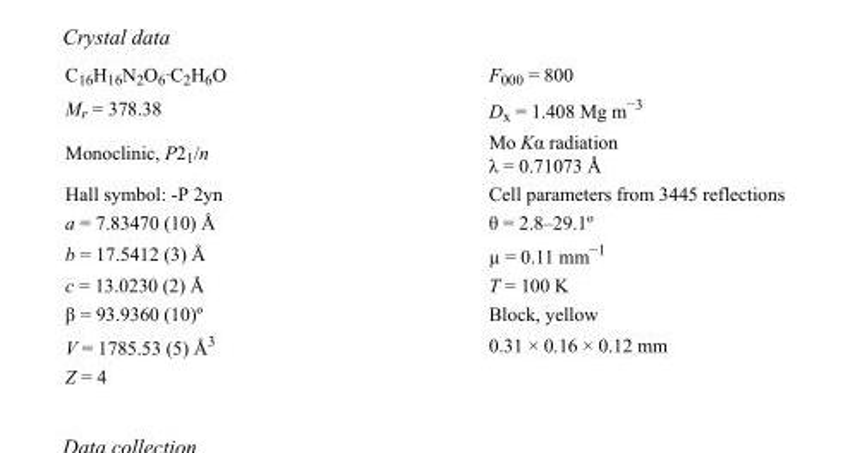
<table><tbody><tr><td>C<sub>16</sub>H<sub>16</sub>N<sub>2</sub>O<sub>6</sub>·C<sub>2</sub>H<sub>6</sub>O</td><td>F000 = 800</td></tr><tr><td>M<sub>r</sub> = 378.38</td><td>D<sub>x</sub> = 1.408 Mg m<sup>−3</sup></td></tr><tr><td>Monoclinic, P2<sub>1</sub>/n</td><td>Mo Kα radiation λ = 0.71073 Å</td></tr><tr><td>Hall symbol: -P 2yn</td><td>Cell parameters from 3445 reflections</td></tr><tr><td>a = 7.83470 (10) Å</td><td>θ = 2.8–29.1º</td></tr><tr><td>b = 17.5412 (3) Å</td><td>µ = 0.11 mm<sup>−1</sup></td></tr><tr><td>c = 13.0230 (2) Å</td><td>T = 100 K</td></tr><tr><td>β = 93.9360 (10)º</td><td>Block, yellow</td></tr><tr><td>V = 1785.53 (5) Å<sup>3</sup></td><td>0.31 × 0.16 × 0.12 mm</td></tr><tr><td>Z = 4</td><td></td></tr></tbody></table>